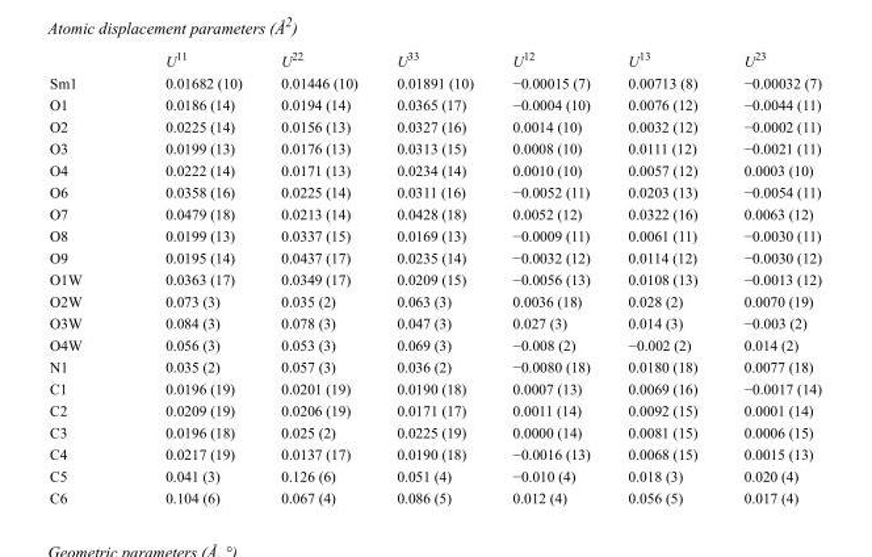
<table><thead><tr><td></td><td>U<sup>11</sup></td><td>U<sup>22</sup></td><td>U<sup>33</sup></td><td>U<sup>12</sup></td><td>U<sup>13</sup></td><td>U<sup>23</sup></td></tr></thead><tbody><tr><td>Sm1</td><td>0.01682 (10)</td><td>0.01446 (10)</td><td>0.01891 (10)</td><td>−0.00015 (7)</td><td>0.00713 (8)</td><td>−0.00032 (7)</td></tr><tr><td>O1</td><td>0.0186 (14)</td><td>0.0194 (14)</td><td>0.0365 (17)</td><td>−0.0004 (10)</td><td>0.0076 (12)</td><td>−0.0044 (11)</td></tr><tr><td>O2</td><td>0.0225 (14)</td><td>0.0156 (13)</td><td>0.0327 (16)</td><td>0.0014 (10)</td><td>0.0032 (12)</td><td>−0.0002 (11)</td></tr><tr><td>O3</td><td>0.0199 (13)</td><td>0.0176 (13)</td><td>0.0313 (15)</td><td>0.0008 (10)</td><td>0.0111 (12)</td><td>−0.0021 (11)</td></tr><tr><td>O4</td><td>0.0222 (14)</td><td>0.0171 (13)</td><td>0.0234 (14)</td><td>0.0010 (10)</td><td>0.0057 (12)</td><td>0.0003 (10)</td></tr><tr><td>O6</td><td>0.0358 (16)</td><td>0.0225 (14)</td><td>0.0311 (16)</td><td>−0.0052 (11)</td><td>0.0203 (13)</td><td>−0.0054 (11)</td></tr><tr><td>O7</td><td>0.0479 (18)</td><td>0.0213 (14)</td><td>0.0428 (18)</td><td>0.0052 (12)</td><td>0.0322 (16)</td><td>0.0063 (12)</td></tr><tr><td>O8</td><td>0.0199 (13)</td><td>0.0337 (15)</td><td>0.0169 (13)</td><td>−0.0009 (11)</td><td>0.0061 (11)</td><td>−0.0030 (11)</td></tr><tr><td>O9</td><td>0.0195 (14)</td><td>0.0437 (17)</td><td>0.0235 (14)</td><td>−0.0032 (12)</td><td>0.0114 (12)</td><td>−0.0030 (12)</td></tr><tr><td>O1W</td><td>0.0363 (17)</td><td>0.0349 (17)</td><td>0.0209 (15)</td><td>−0.0056 (13)</td><td>0.0108 (13)</td><td>−0.0013 (12)</td></tr><tr><td>O2W</td><td>0.073 (3)</td><td>0.035 (2)</td><td>0.063 (3)</td><td>0.0036 (18)</td><td>0.028 (2)</td><td>0.0070 (19)</td></tr><tr><td>O3W</td><td>0.084 (3)</td><td>0.078 (3)</td><td>0.047 (3)</td><td>0.027 (3)</td><td>0.014 (3)</td><td>−0.003 (2)</td></tr><tr><td>O4W</td><td>0.056 (3)</td><td>0.053 (3)</td><td>0.069 (3)</td><td>−0.008 (2)</td><td>−0.002 (2)</td><td>0.014 (2)</td></tr><tr><td>N1</td><td>0.035 (2)</td><td>0.057 (3)</td><td>0.036 (2)</td><td>−0.0080 (18)</td><td>0.0180 (18)</td><td>0.0077 (18)</td></tr><tr><td>C1</td><td>0.0196 (19)</td><td>0.0201 (19)</td><td>0.0190 (18)</td><td>0.0007 (13)</td><td>0.0069 (16)</td><td>−0.0017 (14)</td></tr><tr><td>C2</td><td>0.0209 (19)</td><td>0.0206 (19)</td><td>0.0171 (17)</td><td>0.0011 (14)</td><td>0.0092 (15)</td><td>0.0001 (14)</td></tr><tr><td>C3</td><td>0.0196 (18)</td><td>0.025 (2)</td><td>0.0225 (19)</td><td>0.0000 (14)</td><td>0.0081 (15)</td><td>0.0006 (15)</td></tr><tr><td>C4</td><td>0.0217 (19)</td><td>0.0137 (17)</td><td>0.0190 (18)</td><td>−0.0016 (13)</td><td>0.0068 (15)</td><td>0.0015 (13)</td></tr><tr><td>C5</td><td>0.041 (3)</td><td>0.126 (6)</td><td>0.051 (4)</td><td>−0.010 (4)</td><td>0.018 (3)</td><td>0.020 (4)</td></tr><tr><td>C6</td><td>0.104 (6)</td><td>0.067 (4)</td><td>0.086 (5)</td><td>0.012 (4)</td><td>0.056 (5)</td><td>0.017 (4)</td></tr></tbody></table>